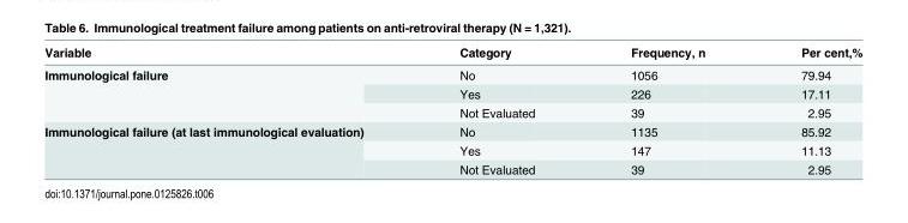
<table><thead><tr><td>Variable</td><td>Category</td><td>Frequency, n</td><td>Per cent,%</td></tr></thead><tbody><tr><td rowspan="3">Immunological failure</td><td>No</td><td>1056</td><td>79.94</td></tr><tr><td>Yes</td><td>226</td><td>17.11</td></tr><tr><td>Not Evaluated</td><td>39</td><td>2.95</td></tr><tr><td rowspan="3">Immunological failure (at last immunological evaluation)</td><td>No</td><td>1135</td><td>85.92</td></tr><tr><td>Yes</td><td>147</td><td>11.13</td></tr><tr><td>Not Evaluated</td><td>39</td><td>2.95</td></tr></tbody></table>